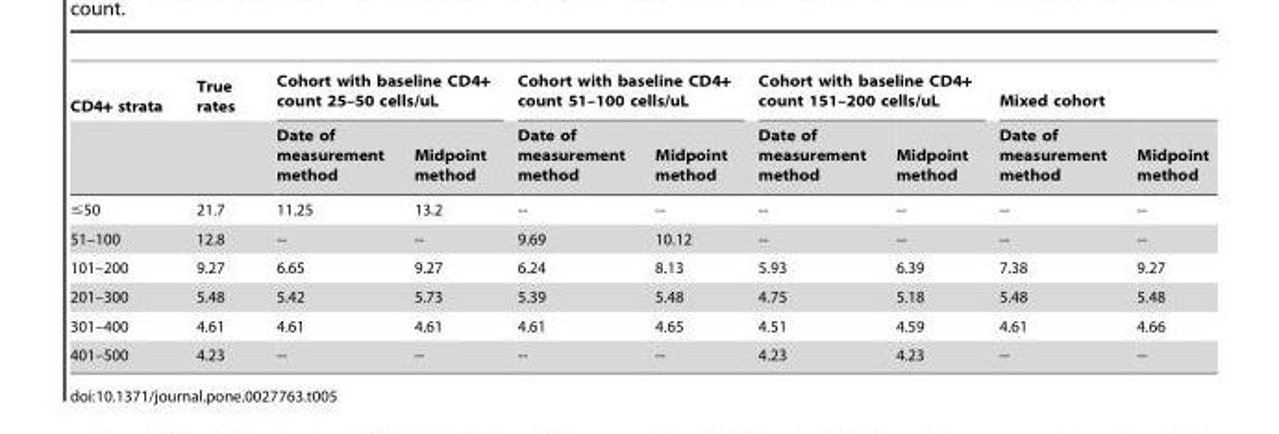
<table><thead><tr><td rowspan="2">CD4+ strata</td><td rowspan="2">True rates</td><td colspan="2">Cohort with baseline CD4+ count 25–50 cells/uL</td><td colspan="2">Cohort with baseline CD4+ count 51–100 cells/uL</td><td colspan="2">Cohort with baseline CD4+ count 151–200 cells/uL</td><td colspan="2">Mixed cohort</td></tr><tr><td>Date of measurement method</td><td>Midpoint method</td><td>Date of measurement method</td><td>Midpoint method</td><td>Date of measurement method</td><td>Midpoint method</td><td>Date of measurement method</td><td>Midpoint method</td></tr></thead><tbody><tr><td>≤50</td><td>21.7</td><td>11.25</td><td>13.2</td><td>--</td><td>--</td><td>--</td><td>--</td><td>--</td><td>--</td></tr><tr><td>51–100</td><td>12.8</td><td>--</td><td>--</td><td>9.69</td><td>10.12</td><td>--</td><td>--</td><td>--</td><td>--</td></tr><tr><td>101–200</td><td>9.27</td><td>6.65</td><td>9.27</td><td>6.24</td><td>8.13</td><td>5.93</td><td>6.39</td><td>7.38</td><td>9.27</td></tr><tr><td>201–300</td><td>5.48</td><td>5.42</td><td>5.73</td><td>5.39</td><td>5.48</td><td>4.75</td><td>5.18</td><td>5.48</td><td>5.48</td></tr><tr><td>301–400</td><td>4.61</td><td>4.61</td><td>4.61</td><td>4.61</td><td>4.65</td><td>4.51</td><td>4.59</td><td>4.61</td><td>4.66</td></tr><tr><td>401–500</td><td>4.23</td><td>--</td><td>--</td><td>--</td><td>--</td><td>4.23</td><td>4.23</td><td>--</td><td>--</td></tr></tbody></table>